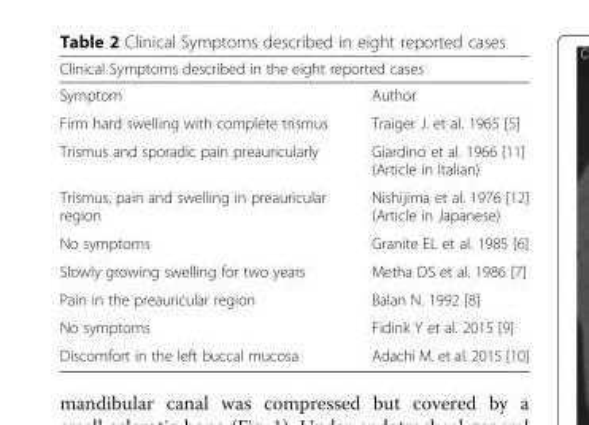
<table><thead><tr><td colspan="2">Clinical Symptoms described in the eight reported cases</td></tr><tr><td>Symptom</td><td>Author</td></tr></thead><tbody><tr><td>Firm hard swelling with complete trismus</td><td>Traiger J. et al. 1965 [5]</td></tr><tr><td>Trismus and sporadic pain preauricularly</td><td>Giardino et al. 1966 [11] (Article in Italian)</td></tr><tr><td>Trismus, pain and swelling in preauricular region</td><td>Nishijima et al. 1976 [12] (Article in Japanese)</td></tr><tr><td>No symptoms</td><td>Granite EL et al. 1985 [6]</td></tr><tr><td>Slowly growing swelling for two years</td><td>Metha DS et al. 1986 [7]</td></tr><tr><td>Pain in the preauricular region</td><td>Balan N. 1992 [8]</td></tr><tr><td>No symptoms</td><td>Fidink Y et al. 2015 [9]</td></tr><tr><td>Discomfort in the left buccal mucosa</td><td>Adachi M. et al. 2015 [10]</td></tr></tbody></table>